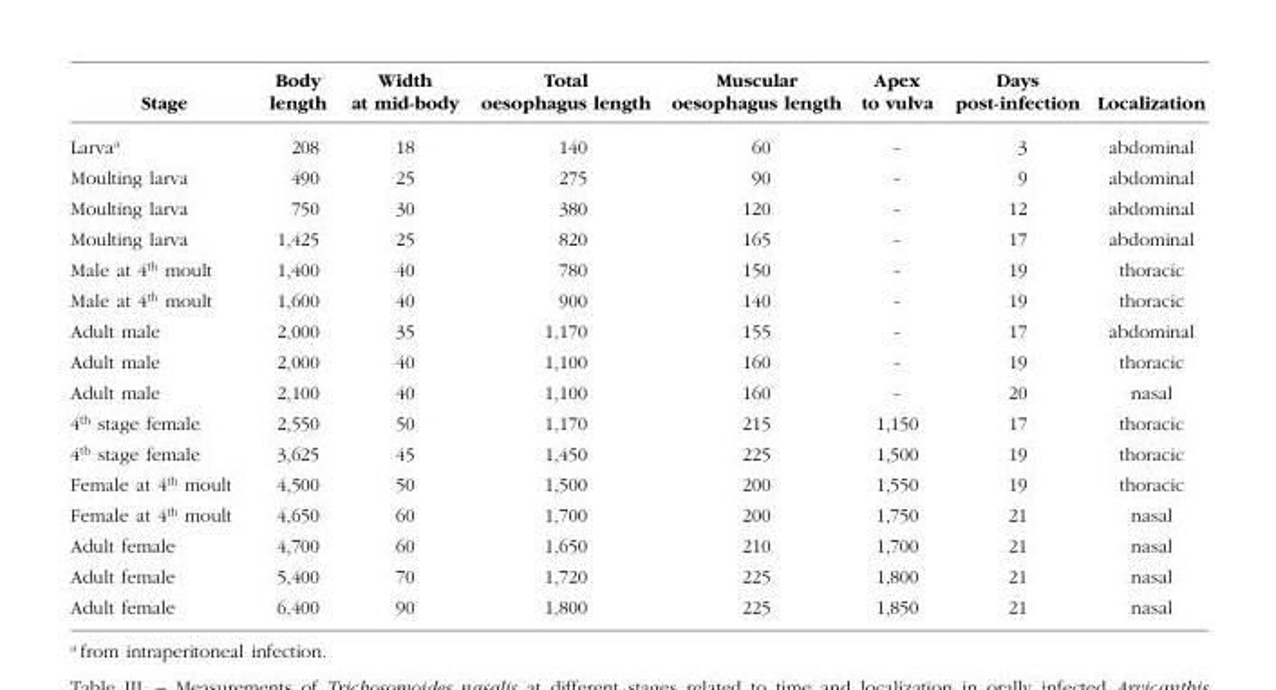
<table><thead><tr><td>Stage</td><td>Body length</td><td>Width at mid-body</td><td>Total oesophagus length</td><td>Muscular oesophagus length</td><td>Apex to vulva</td><td>Days post-infection</td><td>Localization</td></tr></thead><tbody><tr><td>Larva<sup>a</sup></td><td>208</td><td>18</td><td>140</td><td>60</td><td>-</td><td>3</td><td>abdominal</td></tr><tr><td>Moulting larva</td><td>490</td><td>25</td><td>275</td><td>90</td><td>-</td><td>9</td><td>abdominal</td></tr><tr><td>Moulting larva</td><td>750</td><td>30</td><td>380</td><td>120</td><td>-</td><td>12</td><td>abdominal</td></tr><tr><td>Moulting larva</td><td>1,425</td><td>25</td><td>820</td><td>165</td><td>-</td><td>17</td><td>abdominal</td></tr><tr><td>Male at 4<sup>th</sup> moult</td><td>1,400</td><td>40</td><td>780</td><td>150</td><td>-</td><td>19</td><td>thoracic</td></tr><tr><td>Male at 4<sup>th</sup> moult</td><td>1,600</td><td>40</td><td>900</td><td>140</td><td>-</td><td>19</td><td>thoracic</td></tr><tr><td>Adult male</td><td>2,000</td><td>35</td><td>1,170</td><td>155</td><td>-</td><td>17</td><td>abdominal</td></tr><tr><td>Adult male</td><td>2,000</td><td>40</td><td>1,100</td><td>160</td><td>-</td><td>19</td><td>thoracic</td></tr><tr><td>Adult male</td><td>2,100</td><td>40</td><td>1,100</td><td>160</td><td>-</td><td>20</td><td>nasal</td></tr><tr><td>4<sup>th</sup> stage female</td><td>2,550</td><td>50</td><td>1,170</td><td>215</td><td>1,150</td><td>17</td><td>thoracic</td></tr><tr><td>4<sup>th</sup> stage female</td><td>3,625</td><td>45</td><td>1,450</td><td>225</td><td>1,500</td><td>19</td><td>thoracic</td></tr><tr><td>Female at 4<sup>th</sup> moult</td><td>4,500</td><td>50</td><td>1,500</td><td>200</td><td>1,550</td><td>19</td><td>thoracic</td></tr><tr><td>Female at 4<sup>th</sup> moult</td><td>4,650</td><td>60</td><td>1,700</td><td>200</td><td>1,750</td><td>21</td><td>nasal</td></tr><tr><td>Adult female</td><td>4,700</td><td>60</td><td>1,650</td><td>210</td><td>1,700</td><td>21</td><td>nasal</td></tr><tr><td>Adult female</td><td>5,400</td><td>70</td><td>1,720</td><td>225</td><td>1,800</td><td>21</td><td>nasal</td></tr><tr><td>Adult female</td><td>6,400</td><td>90</td><td>1,800</td><td>225</td><td>1,850</td><td>21</td><td>nasal</td></tr></tbody></table>